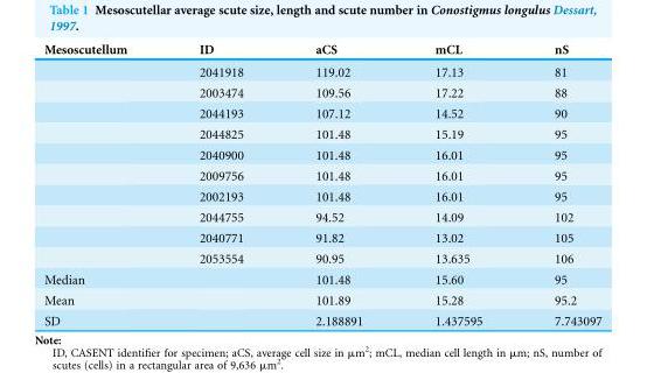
<table><thead><tr><td>Mesoscutellum</td><td>ID</td><td>aCS</td><td>mCL</td><td>nS</td></tr></thead><tbody><tr><td></td><td>2041918</td><td>119.02</td><td>17.13</td><td>81</td></tr><tr><td></td><td>2003474</td><td>109.56</td><td>17.22</td><td>88</td></tr><tr><td></td><td>2044193</td><td>107.12</td><td>14.52</td><td>90</td></tr><tr><td></td><td>2044825</td><td>101.48</td><td>15.19</td><td>95</td></tr><tr><td></td><td>2040900</td><td>101.48</td><td>16.01</td><td>95</td></tr><tr><td></td><td>2009756</td><td>101.48</td><td>16.01</td><td>95</td></tr><tr><td></td><td>2002193</td><td>101.48</td><td>16.01</td><td>95</td></tr><tr><td></td><td>2044755</td><td>94.52</td><td>14.09</td><td>102</td></tr><tr><td></td><td>2040771</td><td>91.82</td><td>13.02</td><td>105</td></tr><tr><td></td><td>2053554</td><td>90.95</td><td>13.635</td><td>106</td></tr><tr><td>Median</td><td></td><td>101.48</td><td>15.60</td><td>95</td></tr><tr><td>Mean</td><td></td><td>101.89</td><td>15.28</td><td>95.2</td></tr><tr><td>SD</td><td></td><td>2.188891</td><td>1.437595</td><td>7.743097</td></tr></tbody></table>